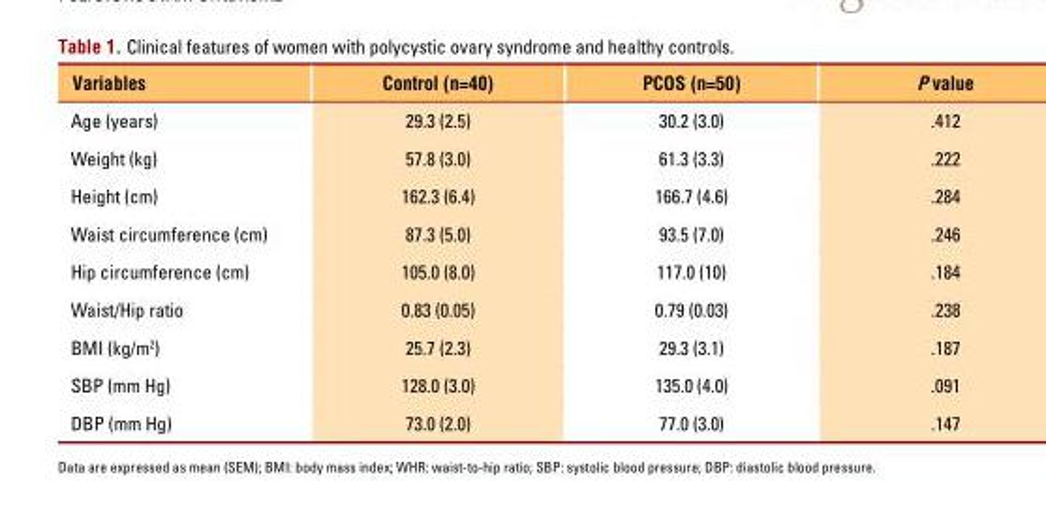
<table><thead><tr><td>Variables</td><td>Control (n=40)</td><td>PCOS (n=50)</td><td>P value</td></tr></thead><tbody><tr><td>Age (years)</td><td>29.3 (2.5)</td><td>30.2 (3.0)</td><td>.412</td></tr><tr><td>Weight (kg)</td><td>57.8 (3.0)</td><td>61.3 (3.3)</td><td>.222</td></tr><tr><td>Height (cm)</td><td>162.3 (6.4)</td><td>166.7 (4.6)</td><td>.284</td></tr><tr><td>Waist circumference (cm)</td><td>87.3 (5.0)</td><td>93.5 (7.0)</td><td>.246</td></tr><tr><td>Hip circumference (cm)</td><td>105.0 (8.0)</td><td>117.0 (10)</td><td>.184</td></tr><tr><td>Waist/Hip ratio</td><td>0.83 (0.05)</td><td>0.79 (0.03)</td><td>.238</td></tr><tr><td>BMI (kg/m<sup>2</sup>)</td><td>25.7 (2.3)</td><td>29.3 (3.1)</td><td>.187</td></tr><tr><td>SBP (mm Hg)</td><td>128.0 (3.0)</td><td>135.0 (4.0)</td><td>.091</td></tr><tr><td>DBP (mm Hg)</td><td>73.0 (2.0)</td><td>77.0 (3.0)</td><td>.147</td></tr></tbody></table>